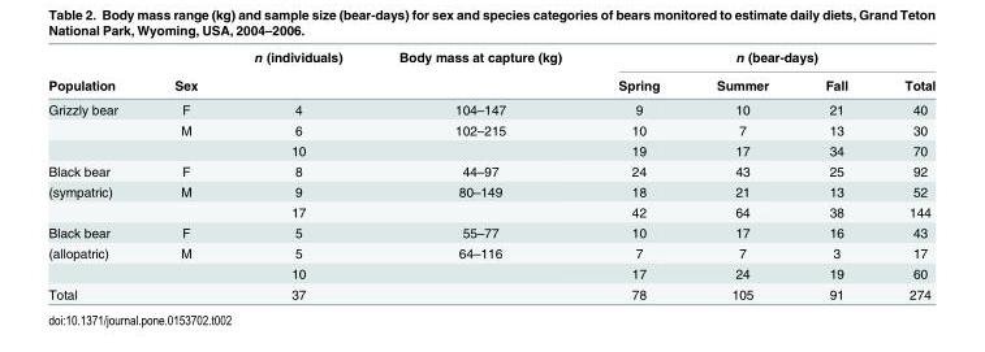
<table><thead><tr><td rowspan="2">Population</td><td rowspan="2">Sex</td><td rowspan="2">n (individuals)</td><td rowspan="2">Body mass at capture (kg)</td><td colspan="4">n (bear-days)</td></tr><tr><td>Spring</td><td>Summer</td><td>Fall</td><td>Total</td></tr></thead><tbody><tr><td rowspan="3">Grizzly bear</td><td>F</td><td>4</td><td>104–147</td><td>9</td><td>10</td><td>21</td><td>40</td></tr><tr><td>M</td><td>6</td><td>102–215</td><td>10</td><td>7</td><td>13</td><td>30</td></tr><tr><td></td><td>10</td><td></td><td>19</td><td>17</td><td>34</td><td>70</td></tr><tr><td>Black bear</td><td>F</td><td>8</td><td>44–97</td><td>24</td><td>43</td><td>25</td><td>92</td></tr><tr><td rowspan="2">(sympatric)</td><td>M</td><td>9</td><td>80–149</td><td>18</td><td>21</td><td>13</td><td>52</td></tr><tr><td></td><td>17</td><td></td><td>42</td><td>64</td><td>38</td><td>144</td></tr><tr><td>Black bear</td><td>F</td><td>5</td><td>55–77</td><td>10</td><td>17</td><td>16</td><td>43</td></tr><tr><td rowspan="2">(allopatric)</td><td>M</td><td>5</td><td>64–116</td><td>7</td><td>7</td><td>3</td><td>17</td></tr><tr><td></td><td>10</td><td></td><td>17</td><td>24</td><td>19</td><td>60</td></tr><tr><td>Total</td><td></td><td>37</td><td></td><td>78</td><td>105</td><td>91</td><td>274</td></tr></tbody></table>